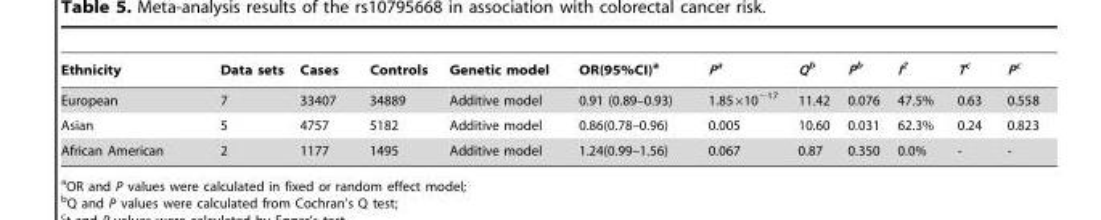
<table><thead><tr><td>Ethnicity</td><td>Data sets</td><td>Cases</td><td>Controls</td><td>Genetic model</td><td>OR(95%CI)<sup>a</sup></td><td>Pa</td><td>Qb</td><td>Pb</td><td>I<sup>2</sup></td><td>Tc</td><td>Pc</td></tr></thead><tbody><tr><td>European</td><td>7</td><td>33407</td><td>34889</td><td>Additive model</td><td>0.91 (0.89–0.93)</td><td>1.85×10<sup>−17</sup></td><td>11.42</td><td>0.076</td><td>47.5%</td><td>0.63</td><td>0.558</td></tr><tr><td>Asian</td><td>5</td><td>4757</td><td>5182</td><td>Additive model</td><td>0.86(0.78–0.96)</td><td>0.005</td><td>10.60</td><td>0.031</td><td>62.3%</td><td>0.24</td><td>0.823</td></tr><tr><td>African American</td><td>2</td><td>1177</td><td>1495</td><td>Additive model</td><td>1.24(0.99–1.56)</td><td>0.067</td><td>0.87</td><td>0.350</td><td>0.0%</td><td>-</td><td>-</td></tr></tbody></table>